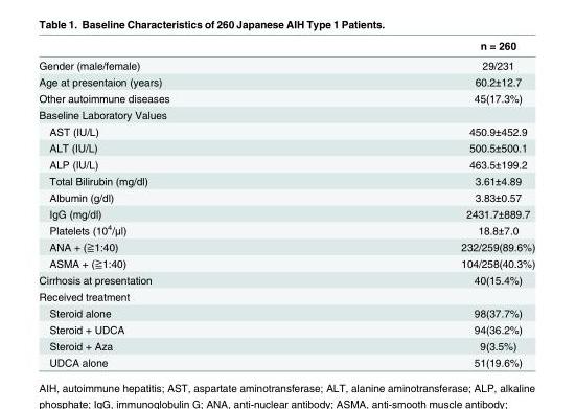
<table><thead><tr><td></td><td>n = 260</td></tr></thead><tbody><tr><td>Gender (male/female)</td><td>29/231</td></tr><tr><td>Age at presentaion (years)</td><td>60.2±12.7</td></tr><tr><td>Other autoimmune diseases</td><td>45(17.3%)</td></tr><tr><td colspan="2">Baseline Laboratory Values</td></tr><tr><td>AST (IU/L)</td><td>450.9±452.9</td></tr><tr><td>ALT (IU/L)</td><td>500.5±500.1</td></tr><tr><td>ALP (IU/L)</td><td>463.5±199.2</td></tr><tr><td>Total Bilirubin (mg/dl)</td><td>3.61±4.89</td></tr><tr><td>Albumin (g/dl)</td><td>3.83±0.57</td></tr><tr><td>IgG (mg/dl)</td><td>2431.7±889.7</td></tr><tr><td>Platelets (10<sup>4</sup>/μl)</td><td>18.8±7.0</td></tr><tr><td>ANA + (≧1:40)</td><td>232/259(89.6%)</td></tr><tr><td>ASMA + (≧1:40)</td><td>104/258(40.3%)</td></tr><tr><td>Cirrhosis at presentation</td><td>40(15.4%)</td></tr><tr><td colspan="2">Received treatment</td></tr><tr><td>Steroid alone</td><td>98(37.7%)</td></tr><tr><td>Steroid + UDCA</td><td>94(36.2%)</td></tr><tr><td>Steroid + Aza</td><td>9(3.5%)</td></tr><tr><td>UDCA alone</td><td>51(19.6%)</td></tr></tbody></table>